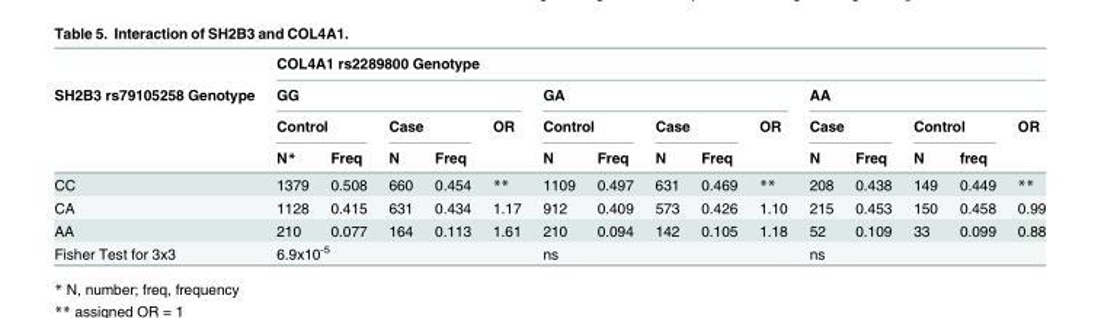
<table><thead><tr><td rowspan="4">SH2B3 rs79105258 Genotype</td><td colspan="15">COL4A1 rs2289800 Genotype</td></tr><tr><td colspan="5">GG</td><td colspan="5">GA</td><td colspan="5">AA</td></tr><tr><td colspan="2">Control</td><td colspan="2">Case</td><td rowspan="2">OR</td><td colspan="2">Control</td><td colspan="2">Case</td><td rowspan="2">OR</td><td colspan="2">Case</td><td colspan="2">Control</td><td rowspan="2">OR</td></tr><tr><td>N*</td><td>Freq</td><td>N</td><td>Freq</td><td>N</td><td>Freq</td><td>N</td><td>Freq</td><td>N</td><td>Freq</td><td>N</td><td>freq</td></tr></thead><tbody><tr><td>CC</td><td>1379</td><td>0.508</td><td>660</td><td>0.454</td><td>**</td><td>1109</td><td>0.497</td><td>631</td><td>0.469</td><td>**</td><td>208</td><td>0.438</td><td>149</td><td>0.449</td><td>**</td></tr><tr><td>CA</td><td>1128</td><td>0.415</td><td>631</td><td>0.434</td><td>1.17</td><td>912</td><td>0.409</td><td>573</td><td>0.426</td><td>1.10</td><td>215</td><td>0.453</td><td>150</td><td>0.458</td><td>0.99</td></tr><tr><td>AA</td><td>210</td><td>0.077</td><td>164</td><td>0.113</td><td>1.61</td><td>210</td><td>0.094</td><td>142</td><td>0.105</td><td>1.18</td><td>52</td><td>0.109</td><td>33</td><td>0.099</td><td>0.88</td></tr><tr><td>Fisher Test for 3x3</td><td colspan="5">6.9x10<sup>-5</sup></td><td colspan="5">ns</td><td colspan="5">ns</td></tr></tbody></table>